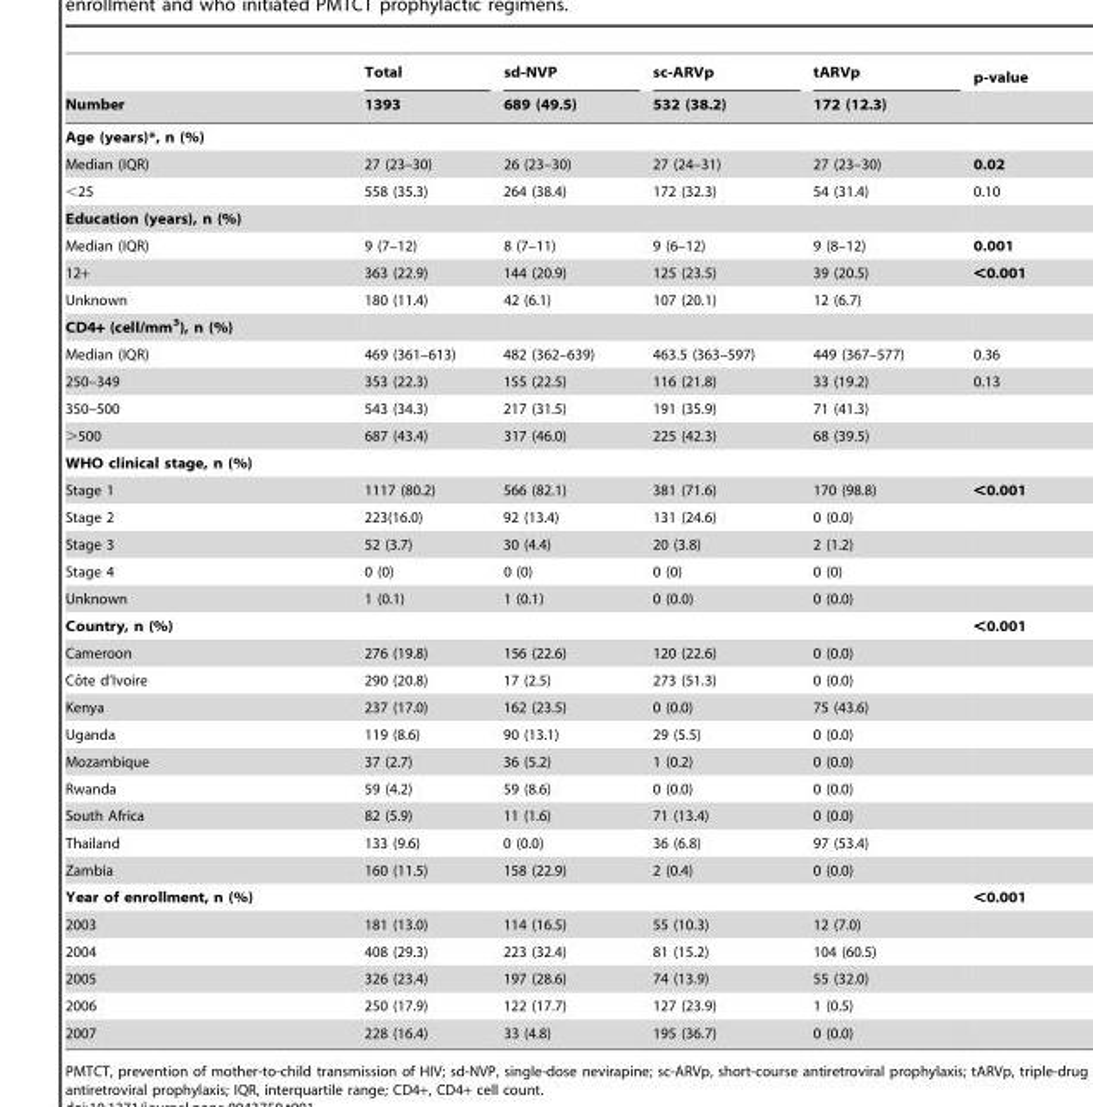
<table><thead><tr><td rowspan="2">Number</td><td rowspan="2">Total 1393</td><td rowspan="2">sd-NVP 689 (49.5)</td><td rowspan="2">sc-ARVp 532 (38.2)</td><td rowspan="2">tARVp 172 (12.3)</td><td rowspan="2">p-value</td></tr><tr></tr></thead><tbody><tr><td colspan="6">Age (years)*, n (%)</td></tr><tr><td>Median (IQR)</td><td>27 (23–30)</td><td>26 (23–30)</td><td>27 (24–31)</td><td>27 (23–30)</td><td>0.02</td></tr><tr><td>&lt;25</td><td>558 (35.3)</td><td>264 (38.4)</td><td>172 (32.3)</td><td>54 (31.4)</td><td>0.10</td></tr><tr><td colspan="6">Education (years), n (%)</td></tr><tr><td>Median (IQR)</td><td>9 (7–12)</td><td>8 (7–11)</td><td>9 (6–12)</td><td>9 (8–12)</td><td>0.001</td></tr><tr><td>12+</td><td>363 (22.9)</td><td>144 (20.9)</td><td>125 (23.5)</td><td>39 (20.5)</td><td>&lt;0.001</td></tr><tr><td>Unknown</td><td>180 (11.4)</td><td>42 (6.1)</td><td>107 (20.1)</td><td>12 (6.7)</td><td></td></tr><tr><td colspan="6">CD4+ (cell/mm<sup>3</sup>), n (%)</td></tr><tr><td>Median (IQR)</td><td>469 (361–613)</td><td>482 (362–639)</td><td>463.5 (363–597)</td><td>449 (367–577)</td><td>0.36</td></tr><tr><td>250–349</td><td>353 (22.3)</td><td>155 (22.5)</td><td>116 (21.8)</td><td>33 (19.2)</td><td>0.13</td></tr><tr><td>350–500</td><td>543 (34.3)</td><td>217 (31.5)</td><td>191 (35.9)</td><td>71 (41.3)</td><td></td></tr><tr><td>&gt;500</td><td>687 (43.4)</td><td>317 (46.0)</td><td>225 (42.3)</td><td>68 (39.5)</td><td></td></tr><tr><td colspan="6">WHO clinical stage, n (%)</td></tr><tr><td>Stage 1</td><td>1117 (80.2)</td><td>566 (82.1)</td><td>381 (71.6)</td><td>170 (98.8)</td><td>&lt;0.001</td></tr><tr><td>Stage 2</td><td>223(16.0)</td><td>92 (13.4)</td><td>131 (24.6)</td><td>0 (0.0)</td><td></td></tr><tr><td>Stage 3</td><td>52 (3.7)</td><td>30 (4.4)</td><td>20 (3.8)</td><td>2 (1.2)</td><td></td></tr><tr><td>Stage 4</td><td>0 (0)</td><td>0 (0)</td><td>0 (0)</td><td>0 (0)</td><td></td></tr><tr><td>Unknown</td><td>1 (0.1)</td><td>1 (0.1)</td><td>0 (0.0)</td><td>0 (0.0)</td><td></td></tr><tr><td>Country, n (%)</td><td></td><td></td><td></td><td></td><td>&lt;0.001</td></tr><tr><td>Cameroon</td><td>276 (19.8)</td><td>156 (22.6)</td><td>120 (22.6)</td><td>0 (0.0)</td><td></td></tr><tr><td>Coˆte d’Ivoire</td><td>290 (20.8)</td><td>17 (2.5)</td><td>273 (51.3)</td><td>0 (0.0)</td><td></td></tr><tr><td>Kenya</td><td>237 (17.0)</td><td>162 (23.5)</td><td>0 (0.0)</td><td>75 (43.6)</td><td></td></tr><tr><td>Uganda</td><td>119 (8.6)</td><td>90 (13.1)</td><td>29 (5.5)</td><td>0 (0.0)</td><td></td></tr><tr><td>Mozambique</td><td>37 (2.7)</td><td>36 (5.2)</td><td>1 (0.2)</td><td>0 (0.0)</td><td></td></tr><tr><td>Rwanda</td><td>59 (4.2)</td><td>59 (8.6)</td><td>0 (0.0)</td><td>0 (0.0)</td><td></td></tr><tr><td>South Africa</td><td>82 (5.9)</td><td>11 (1.6)</td><td>71 (13.4)</td><td>0 (0.0)</td><td></td></tr><tr><td>Thailand</td><td>133 (9.6)</td><td>0 (0.0)</td><td>36 (6.8)</td><td>97 (53.4)</td><td></td></tr><tr><td>Zambia</td><td>160 (11.5)</td><td>158 (22.9)</td><td>2 (0.4)</td><td>0 (0.0)</td><td></td></tr><tr><td>Year of enrollment, n (%)</td><td></td><td></td><td></td><td></td><td>&lt;0.001</td></tr><tr><td>2003</td><td>181 (13.0)</td><td>114 (16.5)</td><td>55 (10.3)</td><td>12 (7.0)</td><td></td></tr><tr><td>2004</td><td>408 (29.3)</td><td>223 (32.4)</td><td>81 (15.2)</td><td>104 (60.5)</td><td></td></tr><tr><td>2005</td><td>326 (23.4)</td><td>197 (28.6)</td><td>74 (13.9)</td><td>55 (32.0)</td><td></td></tr><tr><td>2006</td><td>250 (17.9)</td><td>122 (17.7)</td><td>127 (23.9)</td><td>1 (0.5)</td><td></td></tr><tr><td>2007</td><td>228 (16.4)</td><td>33 (4.8)</td><td>195 (36.7)</td><td>0 (0.0)</td><td></td></tr></tbody></table>